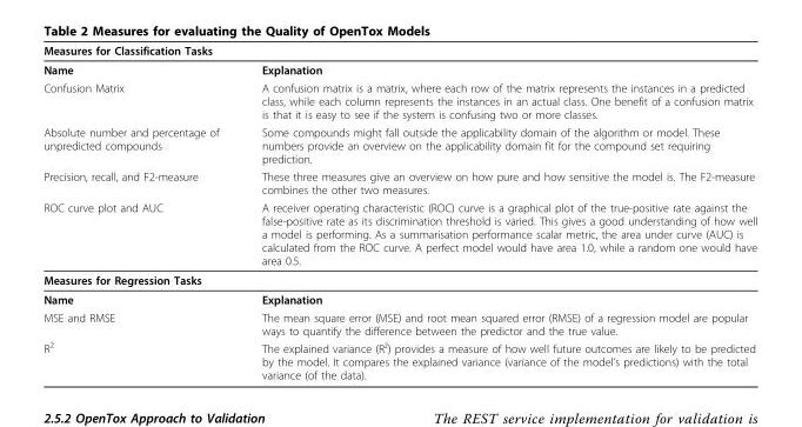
<table><thead><tr><td colspan="2">Measures for Classification Tasks</td></tr><tr><td>Name</td><td>Explanation</td></tr></thead><tbody><tr><td>Confusion Matrix</td><td>A confusion matrix is a matrix, where each row of the matrix represents the instances in a predicted class, while each column represents the instances in an actual class. One benefit of a confusion matrix is that it is easy to see if the system is confusing two or more classes.</td></tr><tr><td>Absolute number and percentage of unpredicted compounds</td><td>Some compounds might fall outside the applicability domain of the algorithm or model. These numbers provide an overview on the applicability domain fit for the compound set requiring prediction.</td></tr><tr><td>Precision, recall, and F2-measure</td><td>These three measures give an overview on how pure and how sensitive the model is. The F2-measure combines the other two measures.</td></tr><tr><td>ROC curve plot and AUC</td><td>A receiver operating characteristic (ROC) curve is a graphical plot of the true-positive rate against the false-positive rate as its discrimination threshold is varied. This gives a good understanding of how well a model is performing. As a summarisation performance scalar metric, the area under curve (AUC) is calculated from the ROC curve. A perfect model would have area 1.0, while a random one would have area 0.5.</td></tr><tr><td colspan="2">Measures for Regression Tasks</td></tr><tr><td>Name</td><td>Explanation</td></tr><tr><td>MSE and RMSE</td><td>The mean square error (MSE) and root mean squared error (RMSE) of a regression model are popular ways to quantify the difference between the predictor and the true value.</td></tr><tr><td>R<sup>2</sup></td><td>The explained variance (R²) provides a measure of how well future outcomes are likely to be predicted by the model. It compares the explained variance (variance of the model’s predictions) with the total variance (of the data).</td></tr></tbody></table>